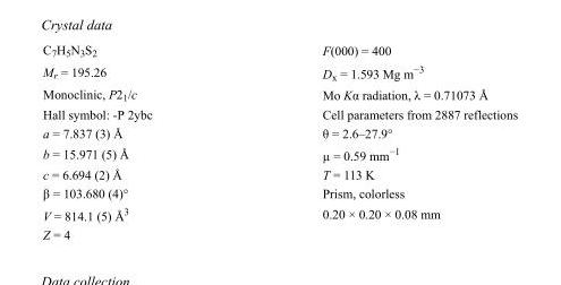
<table><tbody><tr><td>C<sub>7</sub>H<sub>5</sub>N<sub>3</sub>S<sub>2</sub></td><td>F(000) = 400</td></tr><tr><td>M<sub>r</sub> = 195.26</td><td>D<sub>x</sub> = 1.593 Mg m<sup>−3</sup></td></tr><tr><td>Monoclinic, P2<sub>1</sub>/c</td><td>Mo Kα radiation, λ = 0.71073 Å</td></tr><tr><td>Hall symbol: -P 2ybc</td><td>Cell parameters from 2887 reflections</td></tr><tr><td>a = 7.837 (3) Å</td><td>θ = 2.6–27.9°</td></tr><tr><td>b = 15.971 (5) Å</td><td>µ = 0.59 mm<sup>−1</sup></td></tr><tr><td>c = 6.694 (2) Å</td><td>T = 113 K</td></tr><tr><td>β = 103.680 (4)°</td><td>Prism, colorless</td></tr><tr><td>V = 814.1 (5) Å<sup>3</sup></td><td>0.20 × 0.20 × 0.08 mm</td></tr><tr><td>Z = 4</td><td></td></tr></tbody></table>